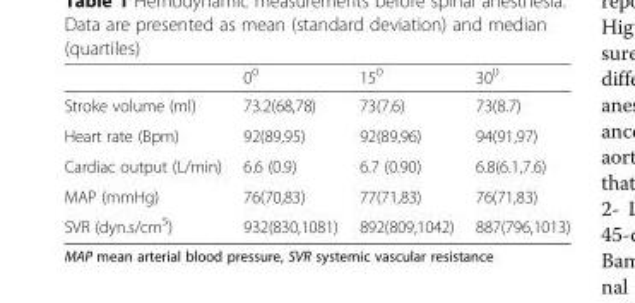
<table><thead><tr><td></td><td>0<sup>0</sup></td><td>15<sup>0</sup></td><td>30<sup>0</sup></td></tr></thead><tbody><tr><td>Stroke volume (ml)</td><td>73.2(68,78)</td><td>73(7.6)</td><td>73(8.7)</td></tr><tr><td>Heart rate (Bpm)</td><td>92(89,95)</td><td>92(89,96)</td><td>94(91,97)</td></tr><tr><td>Cardiac output (L/min)</td><td>6.6 (0.9)</td><td>6.7 (0.90)</td><td>6.8(6.1,7.6)</td></tr><tr><td>MAP (mmHg)</td><td>76(70,83)</td><td>77(71,83)</td><td>76(71,83)</td></tr><tr><td>SVR (dyn.s/cm<sup>5</sup>)</td><td>932(830,1081)</td><td>892(809,1042)</td><td>887(796,1013)</td></tr></tbody></table>